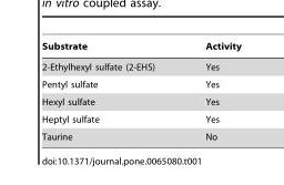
<table><thead><tr><td>Substrate</td><td>Activity</td></tr></thead><tbody><tr><td>2-Ethylhexyl sulfate (2-EHS)</td><td>Yes</td></tr><tr><td>Pentyl sulfate</td><td>Yes</td></tr><tr><td>Hexyl sulfate</td><td>Yes</td></tr><tr><td>Heptyl sulfate</td><td>Yes</td></tr><tr><td>Taurine</td><td>No</td></tr></tbody></table>